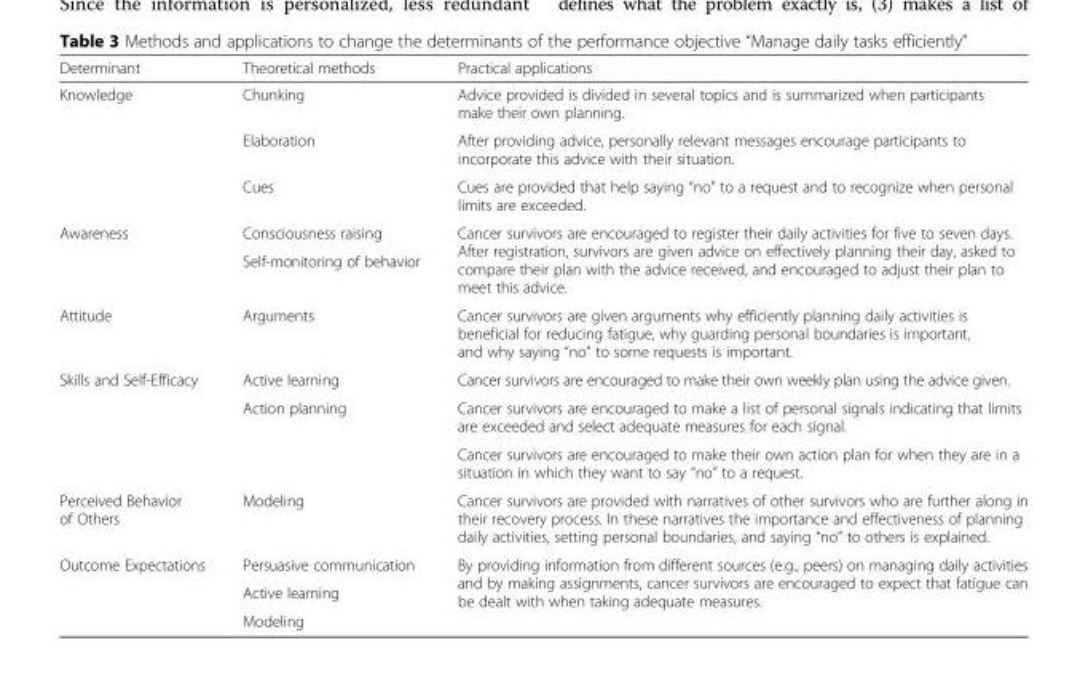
<table><thead><tr><td>Determinant</td><td>Theoretical methods</td><td>Practical applications</td></tr></thead><tbody><tr><td rowspan="3">Knowledge</td><td>Chunking</td><td>Advice provided is divided in several topics and is summarized when participants make their own planning.</td></tr><tr><td>Elaboration</td><td>After providing advice, personally relevant messages encourage participants to incorporate this advice with their situation.</td></tr><tr><td>Cues</td><td>Cues are provided that help saying “no” to a request and to recognize when personal limits are exceeded.</td></tr><tr><td rowspan="2">Awareness</td><td>Consciousness raising</td><td rowspan="2">Cancer survivors are encouraged to register their daily activities for five to seven days. After registration, survivors are given advice on effectively planning their day, asked to compare their plan with the advice received, and encouraged to adjust their plan to meet this advice.</td></tr><tr><td>Self-monitoring of behavior</td></tr><tr><td>Attitude</td><td>Arguments</td><td>Cancer survivors are given arguments why efficiently planning daily activities is beneficial for reducing fatigue, why guarding personal boundaries is important, and why saying “no” to some requests is important.</td></tr><tr><td rowspan="3">Skills and Self-Efficacy</td><td>Active learning</td><td>Cancer survivors are encouraged to make their own weekly plan using the advice given.</td></tr><tr><td>Action planning</td><td>Cancer survivors are encouraged to make a list of personal signals indicating that limits are exceeded and select adequate measures for each signal.</td></tr><tr><td></td><td>Cancer survivors are encouraged to make their own action plan for when they are in a situation in which they want to say “no” to a request.</td></tr><tr><td>Perceived Behavior of Others</td><td>Modeling</td><td>Cancer survivors are provided with narratives of other survivors who are further along in their recovery process. In these narratives the importance and effectiveness of planning daily activities, setting personal boundaries, and saying “no” to others is explained.</td></tr><tr><td rowspan="3">Outcome Expectations</td><td>Persuasive communication</td><td rowspan="3">By providing information from different sources (e.g., peers) on managing daily activities and by making assignments, cancer survivors are encouraged to expect that fatigue can be dealt with when taking adequate measures.</td></tr><tr><td>Active learning</td></tr><tr><td>Modeling</td></tr></tbody></table>